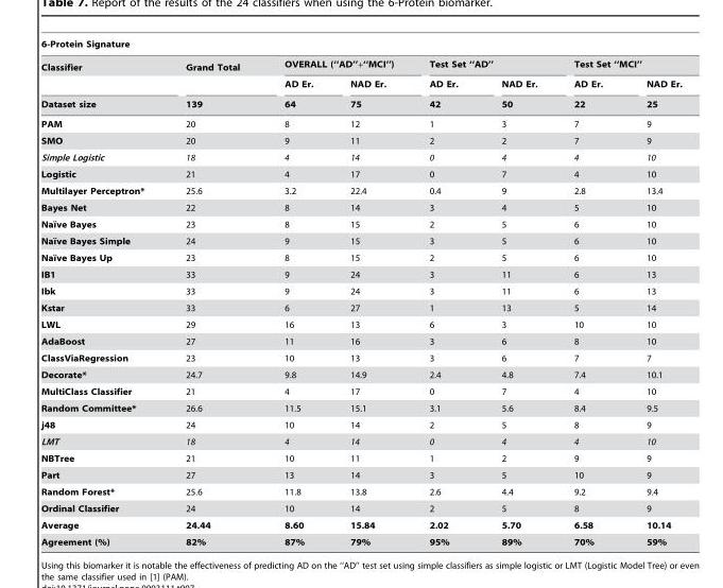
<table><thead><tr><td colspan="8">6-Protein Signature</td></tr><tr><td rowspan="3">Classifier Dataset size</td><td rowspan="3">Grand Total 139</td><td colspan="2">OVERALL (‘‘AD’’+‘‘MCI’’)</td><td colspan="2">Test Set ‘‘AD’’</td><td colspan="2">Test Set ‘‘MCI’’</td></tr><tr><td rowspan="2">AD Er. 64</td><td rowspan="2">NAD Er. 75</td><td rowspan="2">AD Er. 42</td><td rowspan="2">NAD Er. 50</td><td rowspan="2">AD Er. 22</td><td rowspan="2">NAD Er. 25</td></tr><tr></tr></thead><tbody><tr><td>PAM</td><td>20</td><td>8</td><td>12</td><td>1</td><td>3</td><td>7</td><td>9</td></tr><tr><td>SMO</td><td>20</td><td>9</td><td>11</td><td>2</td><td>2</td><td>7</td><td>9</td></tr><tr><td>Simple Logistic</td><td>18</td><td>4</td><td>14</td><td>0</td><td>4</td><td>4</td><td>10</td></tr><tr><td>Logistic</td><td>21</td><td>4</td><td>17</td><td>0</td><td>7</td><td>4</td><td>10</td></tr><tr><td>Multilayer Perceptron*</td><td>25.6</td><td>3.2</td><td>22.4</td><td>0.4</td><td>9</td><td>2.8</td><td>13.4</td></tr><tr><td>Bayes Net</td><td>22</td><td>8</td><td>14</td><td>3</td><td>4</td><td>5</td><td>10</td></tr><tr><td>Naı¨ve Bayes</td><td>23</td><td>8</td><td>15</td><td>2</td><td>5</td><td>6</td><td>10</td></tr><tr><td>Naı¨ve Bayes Simple</td><td>24</td><td>9</td><td>15</td><td>3</td><td>5</td><td>6</td><td>10</td></tr><tr><td>Naı¨ve Bayes Up</td><td>23</td><td>8</td><td>15</td><td>2</td><td>5</td><td>6</td><td>10</td></tr><tr><td>IB1</td><td>33</td><td>9</td><td>24</td><td>3</td><td>11</td><td>6</td><td>13</td></tr><tr><td>Ibk</td><td>33</td><td>9</td><td>24</td><td>3</td><td>11</td><td>6</td><td>13</td></tr><tr><td>Kstar</td><td>33</td><td>6</td><td>27</td><td>1</td><td>13</td><td>5</td><td>14</td></tr><tr><td>LWL</td><td>29</td><td>16</td><td>13</td><td>6</td><td>3</td><td>10</td><td>10</td></tr><tr><td>AdaBoost</td><td>27</td><td>11</td><td>16</td><td>3</td><td>6</td><td>8</td><td>10</td></tr><tr><td>ClassViaRegression</td><td>23</td><td>10</td><td>13</td><td>3</td><td>6</td><td>7</td><td>7</td></tr><tr><td>Decorate*</td><td>24.7</td><td>9.8</td><td>14.9</td><td>2.4</td><td>4.8</td><td>7.4</td><td>10.1</td></tr><tr><td>MultiClass Classifier</td><td>21</td><td>4</td><td>17</td><td>0</td><td>7</td><td>4</td><td>10</td></tr><tr><td>Random Committee*</td><td>26.6</td><td>11.5</td><td>15.1</td><td>3.1</td><td>5.6</td><td>8.4</td><td>9.5</td></tr><tr><td>j48</td><td>24</td><td>10</td><td>14</td><td>2</td><td>5</td><td>8</td><td>9</td></tr><tr><td>LMT</td><td>18</td><td>4</td><td>14</td><td>0</td><td>4</td><td>4</td><td>10</td></tr><tr><td>NBTree</td><td>21</td><td>10</td><td>11</td><td>1</td><td>2</td><td>9</td><td>9</td></tr><tr><td>Part</td><td>27</td><td>13</td><td>14</td><td>3</td><td>5</td><td>10</td><td>9</td></tr><tr><td>Random Forest*</td><td>25.6</td><td>11.8</td><td>13.8</td><td>2.6</td><td>4.4</td><td>9.2</td><td>9.4</td></tr><tr><td>Ordinal Classifier</td><td>24</td><td>10</td><td>14</td><td>2</td><td>5</td><td>8</td><td>9</td></tr><tr><td>Average</td><td>24.44</td><td>8.60</td><td>15.84</td><td>2.02</td><td>5.70</td><td>6.58</td><td>10.14</td></tr><tr><td>Agreement (%)</td><td>82%</td><td>87%</td><td>79%</td><td>95%</td><td>89%</td><td>70%</td><td>59%</td></tr></tbody></table>